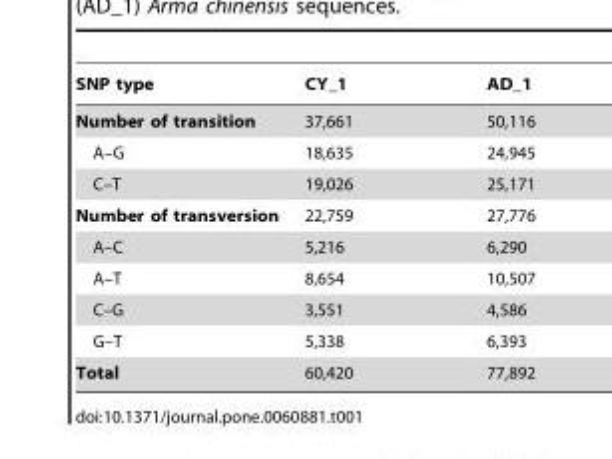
<table><thead><tr><td>SNP type</td><td>CY_1</td><td>AD_1</td></tr></thead><tbody><tr><td>Number of transition</td><td>37,661</td><td>50,116</td></tr><tr><td>A–G</td><td>18,635</td><td>24,945</td></tr><tr><td>C–T</td><td>19,026</td><td>25,171</td></tr><tr><td>Number of transversion</td><td>22,759</td><td>27,776</td></tr><tr><td>A–C</td><td>5,216</td><td>6,290</td></tr><tr><td>A–T</td><td>8,654</td><td>10,507</td></tr><tr><td>C–G</td><td>3,551</td><td>4,586</td></tr><tr><td>G–T</td><td>5,338</td><td>6,393</td></tr><tr><td>Total</td><td>60,420</td><td>77,892</td></tr></tbody></table>